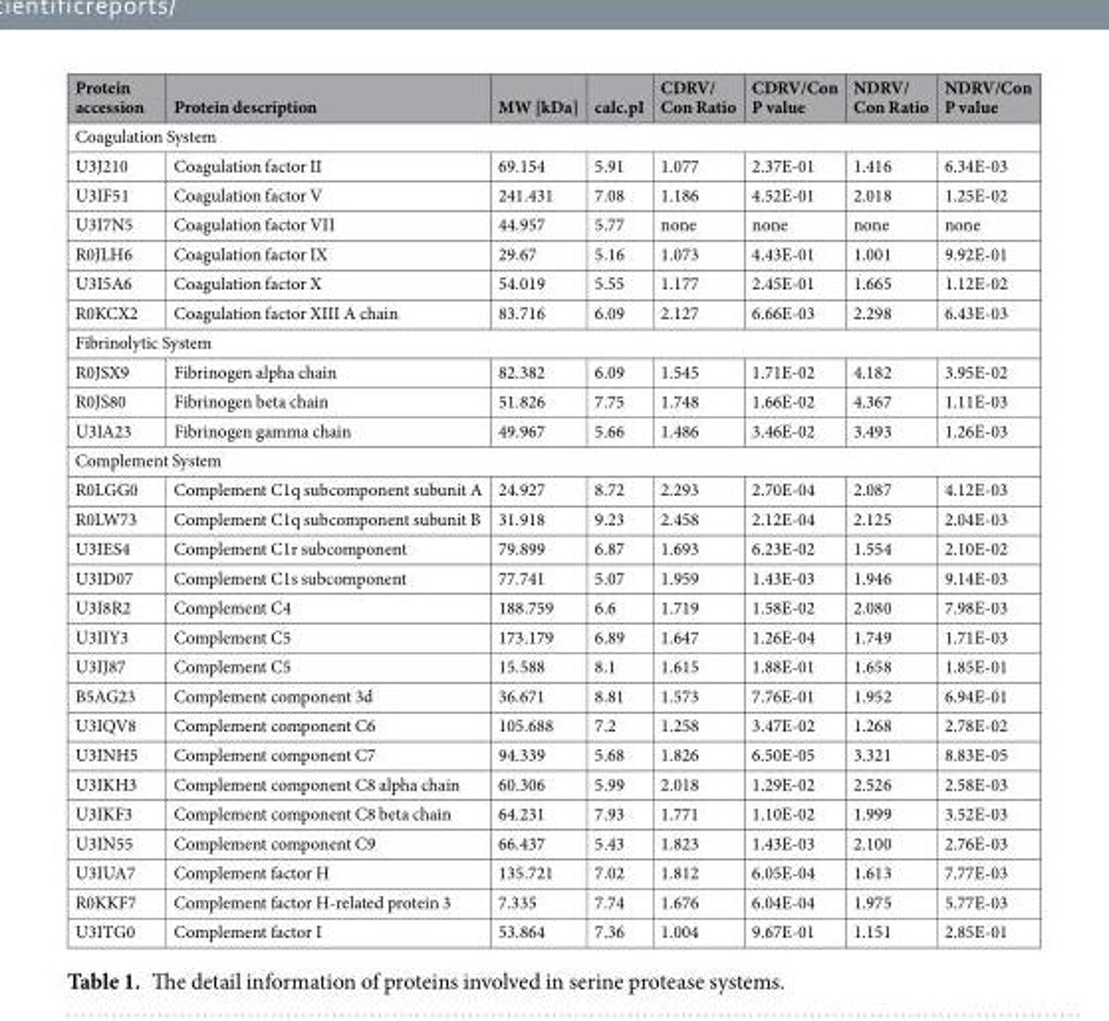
<table><thead><tr><td>Protein accession</td><td>Protein description</td><td>MW [kDa]</td><td>calc.pI</td><td>CDRV/ Con Ratio</td><td>CDRV/Con P value</td><td>NDRV/ Con Ratio</td><td>NDRV/Con P value</td></tr></thead><tbody><tr><td colspan="8">Coagulation System</td></tr><tr><td>U3J210</td><td>Coagulation factor II</td><td>69.154</td><td>5.91</td><td>1.077</td><td>2.37E-01</td><td>1.416</td><td>6.34E-03</td></tr><tr><td>U3IF51</td><td>Coagulation factor V</td><td>241.431</td><td>7.08</td><td>1.186</td><td>4.52E-01</td><td>2.018</td><td>1.25E-02</td></tr><tr><td>U3I7N5</td><td>Coagulation factor VII</td><td>44.957</td><td>5.77</td><td>none</td><td>none</td><td>none</td><td>none</td></tr><tr><td>R0JLH6</td><td>Coagulation factor IX</td><td>29.67</td><td>5.16</td><td>1.073</td><td>4.43E-01</td><td>1.001</td><td>9.92E-01</td></tr><tr><td>U3I5A6</td><td>Coagulation factor X</td><td>54.019</td><td>5.55</td><td>1.177</td><td>2.45E-01</td><td>1.665</td><td>1.12E-02</td></tr><tr><td>R0KCX2</td><td>Coagulation factor XIII A chain</td><td>83.716</td><td>6.09</td><td>2.127</td><td>6.66E-03</td><td>2.298</td><td>6.43E-03</td></tr><tr><td colspan="8">Fibrinolytic System</td></tr><tr><td>R0JSX9</td><td>Fibrinogen alpha chain</td><td>82.382</td><td>6.09</td><td>1.545</td><td>1.71E-02</td><td>4.182</td><td>3.95E-02</td></tr><tr><td>R0JS80</td><td>Fibrinogen beta chain</td><td>51.826</td><td>7.75</td><td>1.748</td><td>1.66E-02</td><td>4.367</td><td>1.11E-03</td></tr><tr><td>U3IA23</td><td>Fibrinogen gamma chain</td><td>49.967</td><td>5.66</td><td>1.486</td><td>3.46E-02</td><td>3.493</td><td>1.26E-03</td></tr><tr><td colspan="8">Complement System</td></tr><tr><td>R0LGG0</td><td>Complement C1q subcomponent subunit A</td><td>24.927</td><td>8.72</td><td>2.293</td><td>2.70E-04</td><td>2.087</td><td>4.12E-03</td></tr><tr><td>R0LW73</td><td>Complement C1q subcomponent subunit B</td><td>31.918</td><td>9.23</td><td>2.458</td><td>2.12E-04</td><td>2.125</td><td>2.04E-03</td></tr><tr><td>U3IES4</td><td>Complement C1r subcomponent</td><td>79.899</td><td>6.87</td><td>1.693</td><td>6.23E-02</td><td>1.554</td><td>2.10E-02</td></tr><tr><td>U3ID07</td><td>Complement C1s subcomponent</td><td>77.741</td><td>5.07</td><td>1.959</td><td>1.43E-03</td><td>1.946</td><td>9.14E-03</td></tr><tr><td>U3I8R2</td><td>Complement C4</td><td>188.759</td><td>6.6</td><td>1.719</td><td>1.58E-02</td><td>2.080</td><td>7.98E-03</td></tr><tr><td>U3IIY3</td><td>Complement C5</td><td>173.179</td><td>6.89</td><td>1.647</td><td>1.26E-04</td><td>1.749</td><td>1.71E-03</td></tr><tr><td>U3IJ87</td><td>Complement C5</td><td>15.588</td><td>8.1</td><td>1.615</td><td>1.88E-01</td><td>1.658</td><td>1.85E-01</td></tr><tr><td>B5AG23</td><td>Complement component 3d</td><td>36.671</td><td>8.81</td><td>1.573</td><td>7.76E-01</td><td>1.952</td><td>6.94E-01</td></tr><tr><td>U3IQV8</td><td>Complement component C6</td><td>105.688</td><td>7.2</td><td>1.258</td><td>3.47E-02</td><td>1.268</td><td>2.78E-02</td></tr><tr><td>U3INH5</td><td>Complement component C7</td><td>94.339</td><td>5.68</td><td>1.826</td><td>6.50E-05</td><td>3.321</td><td>8.83E-05</td></tr><tr><td>U3IKH3</td><td>Complement component C8 alpha chain</td><td>60.306</td><td>5.99</td><td>2.018</td><td>1.29E-02</td><td>2.526</td><td>2.58E-03</td></tr><tr><td>U3IKF3</td><td>Complement component C8 beta chain</td><td>64.231</td><td>7.93</td><td>1.771</td><td>1.10E-02</td><td>1.999</td><td>3.52E-03</td></tr><tr><td>U3IN55</td><td>Complement component C9</td><td>66.437</td><td>5.43</td><td>1.823</td><td>1.43E-03</td><td>2.100</td><td>2.76E-03</td></tr><tr><td>U3IUA7</td><td>Complement factor H</td><td>135.721</td><td>7.02</td><td>1.812</td><td>6.05E-04</td><td>1.613</td><td>7.77E-03</td></tr><tr><td>R0KKF7</td><td>Complement factor H-related protein 3</td><td>7.335</td><td>7.74</td><td>1.676</td><td>6.04E-04</td><td>1.975</td><td>5.77E-03</td></tr><tr><td>U3ITG0</td><td>Complement factor I</td><td>53.864</td><td>7.36</td><td>1.004</td><td>9.67E-01</td><td>1.151</td><td>2.85E-01</td></tr></tbody></table>